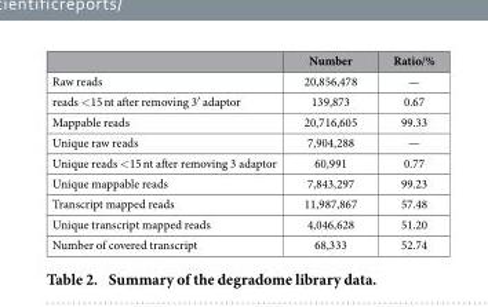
<table><thead><tr><td></td><td>Number</td><td>Ratio/%</td></tr></thead><tbody><tr><td>Raw reads</td><td>20,856,478</td><td>—</td></tr><tr><td>reads &lt; 15 nt after removing 3′ adaptor</td><td>139,873</td><td>0.67</td></tr><tr><td>Mappable reads</td><td>20,716,605</td><td>99.33</td></tr><tr><td>Unique raw reads</td><td>7,904,288</td><td>—</td></tr><tr><td>Unique reads &lt; 15 nt after removing 3 adaptor</td><td>60,991</td><td>0.77</td></tr><tr><td>Unique mappable reads</td><td>7,843,297</td><td>99.23</td></tr><tr><td>Transcript mapped reads</td><td>11,987,867</td><td>57.48</td></tr><tr><td>Unique transcript mapped reads</td><td>4,046,628</td><td>51.20</td></tr><tr><td>Number of covered transcript</td><td>68,333</td><td>52.74</td></tr></tbody></table>